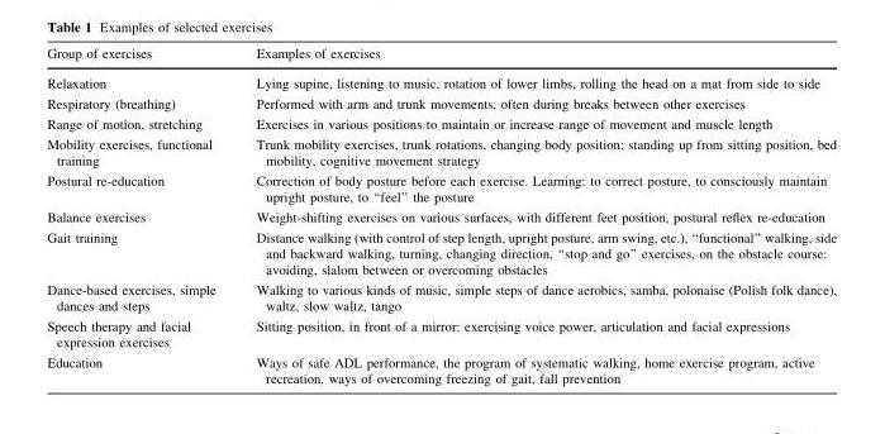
<table><thead><tr><td>Group of exercises</td><td>Examples of exercises</td></tr></thead><tbody><tr><td>Relaxation</td><td>Lying supine, listening to music, rotation of lower limbs, rolling the head on a mat from side to side</td></tr><tr><td>Respiratory (breathing)</td><td>Performed with arm and trunk movements, often during breaks between other exercises</td></tr><tr><td>Range of motion, stretching</td><td>Exercises in various positions to maintain or increase range of movement and muscle length</td></tr><tr><td>Mobility exercises, functional training</td><td>Trunk mobility exercises, trunk rotations, changing body position: standing up from sitting position, bed mobility, cognitive movement strategy</td></tr><tr><td>Postural re-education</td><td>Correction of body posture before each exercise. Learning: to correct posture, to consciously maintain upright posture, to ‘‘feel’’ the posture</td></tr><tr><td>Balance exercises</td><td>Weight-shifting exercises on various surfaces, with different feet position, postural reflex re-education</td></tr><tr><td>Gait training</td><td>Distance walking (with control of step length, upright posture, arm swing, etc.), ‘‘functional’’ walking, side and backward walking, turning, changing direction, ‘‘stop and go’’ exercises, on the obstacle course: avoiding, slalom between or overcoming obstacles</td></tr><tr><td>Dance-based exercises, simple dances and steps</td><td>Walking to various kinds of music, simple steps of dance aerobics, samba, polonaise (Polish folk dance), waltz, slow waltz, tango</td></tr><tr><td>Speech therapy and facial expression exercises</td><td>Sitting position, in front of a mirror: exercising voice power, articulation and facial expressions</td></tr><tr><td>Education</td><td>Ways of safe ADL performance, the program of systematic walking, home exercise program, active recreation, ways of overcoming freezing of gait, fall prevention</td></tr></tbody></table>